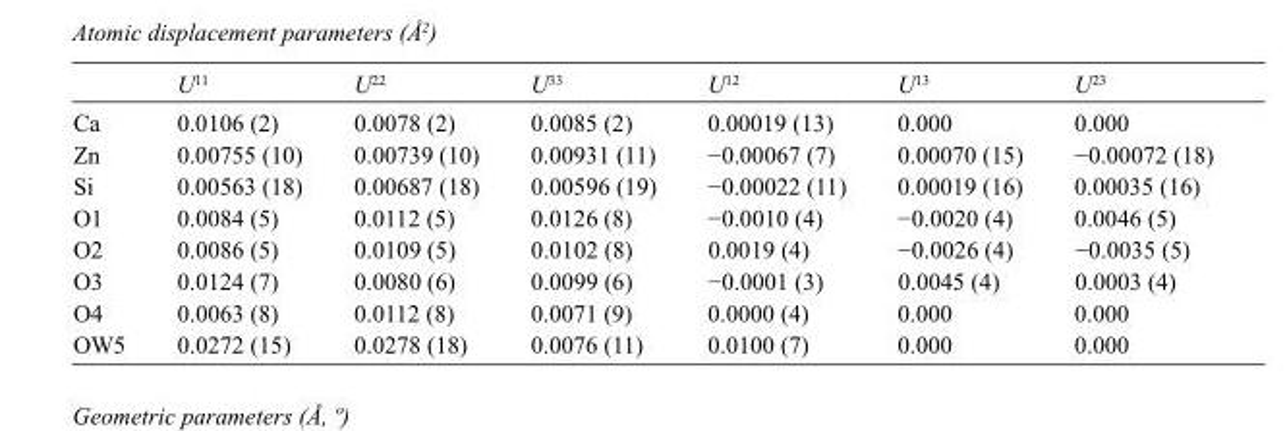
<table><thead><tr><td></td><td>U<sup>11</sup></td><td>U<sup>22</sup></td><td>U<sup>33</sup></td><td>U<sup>12</sup></td><td>U<sup>13</sup></td><td>U<sup>23</sup></td></tr></thead><tbody><tr><td>Ca</td><td>0.0106 (2)</td><td>0.0078 (2)</td><td>0.0085 (2)</td><td>0.00019 (13)</td><td>0.000</td><td>0.000</td></tr><tr><td>Zn</td><td>0.00755 (10)</td><td>0.00739 (10)</td><td>0.00931 (11)</td><td>−0.00067 (7)</td><td>0.00070 (15)</td><td>−0.00072 (18)</td></tr><tr><td>Si</td><td>0.00563 (18)</td><td>0.00687 (18)</td><td>0.00596 (19)</td><td>−0.00022 (11)</td><td>0.00019 (16)</td><td>0.00035 (16)</td></tr><tr><td>O1</td><td>0.0084 (5)</td><td>0.0112 (5)</td><td>0.0126 (8)</td><td>−0.0010 (4)</td><td>−0.0020 (4)</td><td>0.0046 (5)</td></tr><tr><td>O2</td><td>0.0086 (5)</td><td>0.0109 (5)</td><td>0.0102 (8)</td><td>0.0019 (4)</td><td>−0.0026 (4)</td><td>−0.0035 (5)</td></tr><tr><td>O3</td><td>0.0124 (7)</td><td>0.0080 (6)</td><td>0.0099 (6)</td><td>−0.0001 (3)</td><td>0.0045 (4)</td><td>0.0003 (4)</td></tr><tr><td>O4</td><td>0.0063 (8)</td><td>0.0112 (8)</td><td>0.0071 (9)</td><td>0.0000 (4)</td><td>0.000</td><td>0.000</td></tr><tr><td>OW5</td><td>0.0272 (15)</td><td>0.0278 (18)</td><td>0.0076 (11)</td><td>0.0100 (7)</td><td>0.000</td><td>0.000</td></tr></tbody></table>